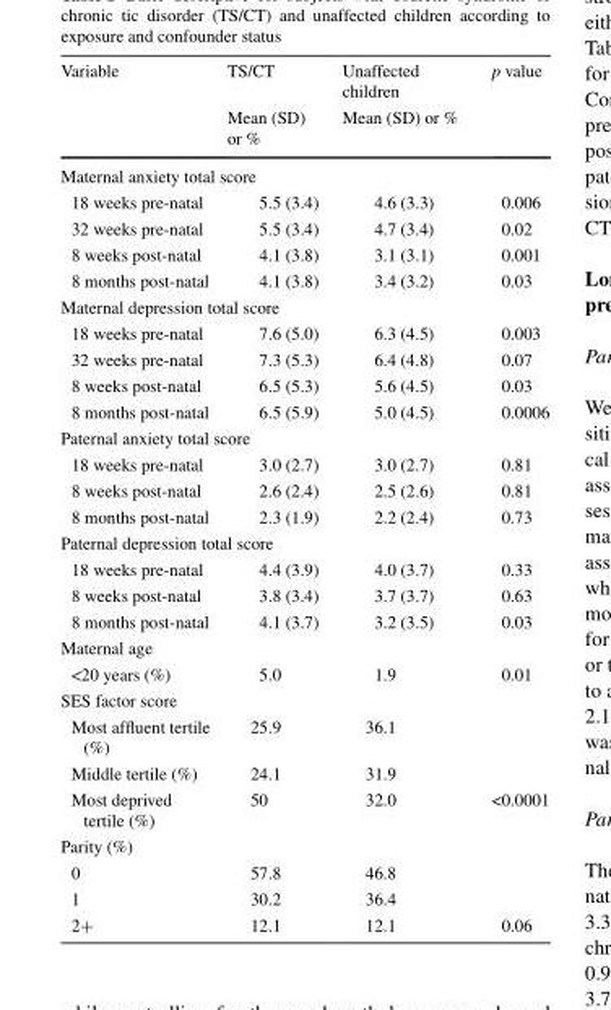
<table><thead><tr><td rowspan="2">Variable</td><td rowspan="2">TS/CT Mean (SD) or %</td><td rowspan="2">Unaffected children Mean (SD) or %</td><td rowspan="2">p value</td></tr><tr></tr></thead><tbody><tr><td colspan="4">Maternal anxiety total score</td></tr><tr><td>18 weeks pre-natal</td><td>5.5 (3.4)</td><td>4.6 (3.3)</td><td>0.006</td></tr><tr><td>32 weeks pre-natal</td><td>5.5 (3.4)</td><td>4.7 (3.4)</td><td>0.02</td></tr><tr><td>8 weeks post-natal</td><td>4.1 (3.8)</td><td>3.1 (3.1)</td><td>0.001</td></tr><tr><td>8 months post-natal</td><td>4.1 (3.8)</td><td>3.4 (3.2)</td><td>0.03</td></tr><tr><td colspan="4">Maternal depression total score</td></tr><tr><td>18 weeks pre-natal</td><td>7.6 (5.0)</td><td>6.3 (4.5)</td><td>0.003</td></tr><tr><td>32 weeks pre-natal</td><td>7.3 (5.3)</td><td>6.4 (4.8)</td><td>0.07</td></tr><tr><td>8 weeks post-natal</td><td>6.5 (5.3)</td><td>5.6 (4.5)</td><td>0.03</td></tr><tr><td>8 months post-natal</td><td>6.5 (5.9)</td><td>5.0 (4.5)</td><td>0.0006</td></tr><tr><td colspan="4">Paternal anxiety total score</td></tr><tr><td>18 weeks pre-natal</td><td>3.0 (2.7)</td><td>3.0 (2.7)</td><td>0.81</td></tr><tr><td>8 weeks post-natal</td><td>2.6 (2.4)</td><td>2.5 (2.6)</td><td>0.81</td></tr><tr><td>8 months post-natal</td><td>2.3 (1.9)</td><td>2.2 (2.4)</td><td>0.73</td></tr><tr><td colspan="4">Paternal depression total score</td></tr><tr><td>18 weeks pre-natal</td><td>4.4 (3.9)</td><td>4.0 (3.7)</td><td>0.33</td></tr><tr><td>8 weeks post-natal</td><td>3.8 (3.4)</td><td>3.7 (3.7)</td><td>0.63</td></tr><tr><td>8 months post-natal</td><td>4.1 (3.7)</td><td>3.2 (3.5)</td><td>0.03</td></tr><tr><td colspan="4">Maternal age</td></tr><tr><td>&lt;20 years (%)</td><td>5.0</td><td>1.9</td><td>0.01</td></tr><tr><td colspan="4">SES factor score</td></tr><tr><td>Most affluent tertile (%)</td><td>25.9</td><td>36.1</td><td></td></tr><tr><td>Middle tertile (%)</td><td>24.1</td><td>31.9</td><td></td></tr><tr><td>Most deprived tertile (%)</td><td>50</td><td>32.0</td><td>&lt;0.0001</td></tr><tr><td colspan="4">Parity (%)</td></tr><tr><td>0</td><td>57.8</td><td>46.8</td><td></td></tr><tr><td>1</td><td>30.2</td><td>36.4</td><td></td></tr><tr><td>2+</td><td>12.1</td><td>12.1</td><td>0.06</td></tr></tbody></table>